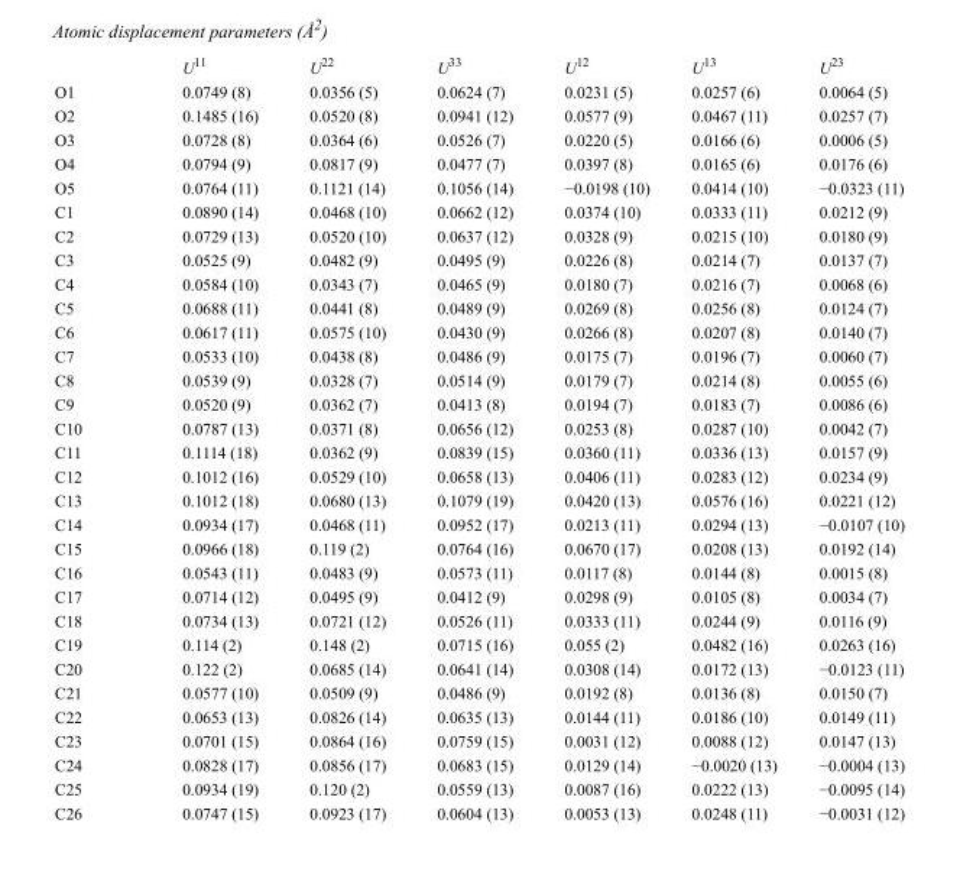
<table><thead><tr><td></td><td>U<sup>11</sup></td><td>U<sup>22</sup></td><td>U<sup>33</sup></td><td>U<sup>12</sup></td><td>U<sup>13</sup></td><td>U<sup>23</sup></td></tr></thead><tbody><tr><td>O1</td><td>0.0749 (8)</td><td>0.0356 (5)</td><td>0.0624 (7)</td><td>0.0231 (5)</td><td>0.0257 (6)</td><td>0.0064 (5)</td></tr><tr><td>O2</td><td>0.1485 (16)</td><td>0.0520 (8)</td><td>0.0941 (12)</td><td>0.0577 (9)</td><td>0.0467 (11)</td><td>0.0257 (7)</td></tr><tr><td>O3</td><td>0.0728 (8)</td><td>0.0364 (6)</td><td>0.0526 (7)</td><td>0.0220 (5)</td><td>0.0166 (6)</td><td>0.0006 (5)</td></tr><tr><td>O4</td><td>0.0794 (9)</td><td>0.0817 (9)</td><td>0.0477 (7)</td><td>0.0397 (8)</td><td>0.0165 (6)</td><td>0.0176 (6)</td></tr><tr><td>O5</td><td>0.0764 (11)</td><td>0.1121 (14)</td><td>0.1056 (14)</td><td>−0.0198 (10)</td><td>0.0414 (10)</td><td>−0.0323 (11)</td></tr><tr><td>C1</td><td>0.0890 (14)</td><td>0.0468 (10)</td><td>0.0662 (12)</td><td>0.0374 (10)</td><td>0.0333 (11)</td><td>0.0212 (9)</td></tr><tr><td>C2</td><td>0.0729 (13)</td><td>0.0520 (10)</td><td>0.0637 (12)</td><td>0.0328 (9)</td><td>0.0215 (10)</td><td>0.0180 (9)</td></tr><tr><td>C3</td><td>0.0525 (9)</td><td>0.0482 (9)</td><td>0.0495 (9)</td><td>0.0226 (8)</td><td>0.0214 (7)</td><td>0.0137 (7)</td></tr><tr><td>C4</td><td>0.0584 (10)</td><td>0.0343 (7)</td><td>0.0465 (9)</td><td>0.0180 (7)</td><td>0.0216 (7)</td><td>0.0068 (6)</td></tr><tr><td>C5</td><td>0.0688 (11)</td><td>0.0441 (8)</td><td>0.0489 (9)</td><td>0.0269 (8)</td><td>0.0256 (8)</td><td>0.0124 (7)</td></tr><tr><td>C6</td><td>0.0617 (11)</td><td>0.0575 (10)</td><td>0.0430 (9)</td><td>0.0266 (8)</td><td>0.0207 (8)</td><td>0.0140 (7)</td></tr><tr><td>C7</td><td>0.0533 (10)</td><td>0.0438 (8)</td><td>0.0486 (9)</td><td>0.0175 (7)</td><td>0.0196 (7)</td><td>0.0060 (7)</td></tr><tr><td>C8</td><td>0.0539 (9)</td><td>0.0328 (7)</td><td>0.0514 (9)</td><td>0.0179 (7)</td><td>0.0214 (8)</td><td>0.0055 (6)</td></tr><tr><td>C9</td><td>0.0520 (9)</td><td>0.0362 (7)</td><td>0.0413 (8)</td><td>0.0194 (7)</td><td>0.0183 (7)</td><td>0.0086 (6)</td></tr><tr><td>C10</td><td>0.0787 (13)</td><td>0.0371 (8)</td><td>0.0656 (12)</td><td>0.0253 (8)</td><td>0.0287 (10)</td><td>0.0042 (7)</td></tr><tr><td>C11</td><td>0.1114 (18)</td><td>0.0362 (9)</td><td>0.0839 (15)</td><td>0.0360 (11)</td><td>0.0336 (13)</td><td>0.0157 (9)</td></tr><tr><td>C12</td><td>0.1012 (16)</td><td>0.0529 (10)</td><td>0.0658 (13)</td><td>0.0406 (11)</td><td>0.0283 (12)</td><td>0.0234 (9)</td></tr><tr><td>C13</td><td>0.1012 (18)</td><td>0.0680 (13)</td><td>0.1079 (19)</td><td>0.0420 (13)</td><td>0.0576 (16)</td><td>0.0221 (12)</td></tr><tr><td>C14</td><td>0.0934 (17)</td><td>0.0468 (11)</td><td>0.0952 (17)</td><td>0.0213 (11)</td><td>0.0294 (13)</td><td>−0.0107 (10)</td></tr><tr><td>C15</td><td>0.0966 (18)</td><td>0.119 (2)</td><td>0.0764 (16)</td><td>0.0670 (17)</td><td>0.0208 (13)</td><td>0.0192 (14)</td></tr><tr><td>C16</td><td>0.0543 (11)</td><td>0.0483 (9)</td><td>0.0573 (11)</td><td>0.0117 (8)</td><td>0.0144 (8)</td><td>0.0015 (8)</td></tr><tr><td>C17</td><td>0.0714 (12)</td><td>0.0495 (9)</td><td>0.0412 (9)</td><td>0.0298 (9)</td><td>0.0105 (8)</td><td>0.0034 (7)</td></tr><tr><td>C18</td><td>0.0734 (13)</td><td>0.0721 (12)</td><td>0.0526 (11)</td><td>0.0333 (11)</td><td>0.0244 (9)</td><td>0.0116 (9)</td></tr><tr><td>C19</td><td>0.114 (2)</td><td>0.148 (2)</td><td>0.0715 (16)</td><td>0.055 (2)</td><td>0.0482 (16)</td><td>0.0263 (16)</td></tr><tr><td>C20</td><td>0.122 (2)</td><td>0.0685 (14)</td><td>0.0641 (14)</td><td>0.0308 (14)</td><td>0.0172 (13)</td><td>−0.0123 (11)</td></tr><tr><td>C21</td><td>0.0577 (10)</td><td>0.0509 (9)</td><td>0.0486 (9)</td><td>0.0192 (8)</td><td>0.0136 (8)</td><td>0.0150 (7)</td></tr><tr><td>C22</td><td>0.0653 (13)</td><td>0.0826 (14)</td><td>0.0635 (13)</td><td>0.0144 (11)</td><td>0.0186 (10)</td><td>0.0149 (11)</td></tr><tr><td>C23</td><td>0.0701 (15)</td><td>0.0864 (16)</td><td>0.0759 (15)</td><td>0.0031 (12)</td><td>0.0088 (12)</td><td>0.0147 (13)</td></tr><tr><td>C24</td><td>0.0828 (17)</td><td>0.0856 (17)</td><td>0.0683 (15)</td><td>0.0129 (14)</td><td>−0.0020 (13)</td><td>−0.0004 (13)</td></tr><tr><td>C25</td><td>0.0934 (19)</td><td>0.120 (2)</td><td>0.0559 (13)</td><td>0.0087 (16)</td><td>0.0222 (13)</td><td>−0.0095 (14)</td></tr><tr><td>C26</td><td>0.0747 (15)</td><td>0.0923 (17)</td><td>0.0604 (13)</td><td>0.0053 (13)</td><td>0.0248 (11)</td><td>−0.0031 (12)</td></tr></tbody></table>